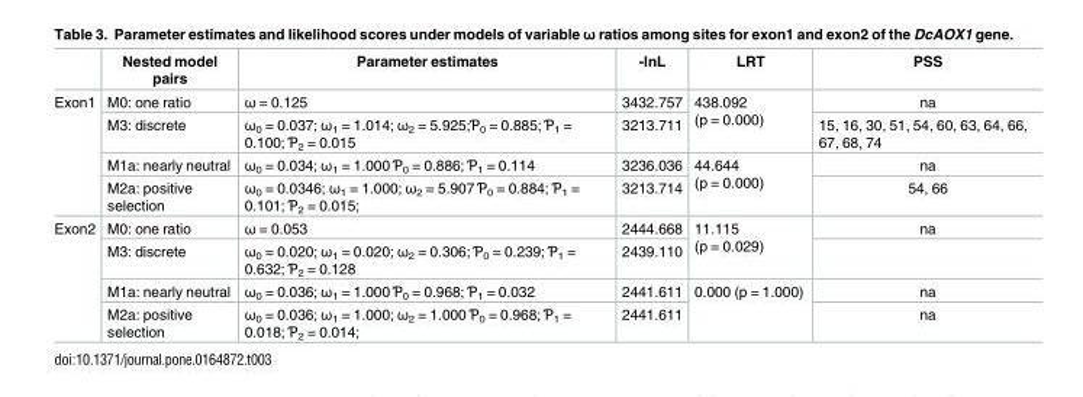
<table><thead><tr><td></td><td>Nested model pairs</td><td>Parameter estimates</td><td>-lnL</td><td>LRT</td><td>PSS</td></tr></thead><tbody><tr><td rowspan="4">Exon1</td><td>M0: one ratio</td><td>ω = 0.125</td><td>3432.757</td><td rowspan="2">438.092 (p = 0.000)</td><td>na</td></tr><tr><td>M3: discrete</td><td>ω<sub>0</sub> = 0.037; ω<sub>1</sub> = 1.014; ω<sub>2</sub> = 5.925;Ƥ<sub>0</sub> = 0.885; Ƥ<sub>1</sub> = 0.100; Ƥ<sub>2</sub> = 0.015</td><td>3213.711</td><td>15, 16, 30, 51, 54, 60, 63, 64, 66, 67, 68, 74</td></tr><tr><td>M1a: nearly neutral</td><td>ω<sub>0</sub> = 0.034; ω<sub>1</sub> = 1.000 Ƥ<sub>0</sub> = 0.886; Ƥ<sub>1</sub> = 0.114</td><td>3236.036</td><td rowspan="2">44.644 (p = 0.000)</td><td>na</td></tr><tr><td>M2a: positive selection</td><td>ω<sub>0</sub> = 0.0346; ω<sub>1</sub> = 1.000; ω<sub>2</sub> = 5.907 Ƥ<sub>0</sub> = 0.884; Ƥ<sub>1</sub> = 0.101; Ƥ<sub>2</sub> = 0.015;</td><td>3213.714</td><td>54, 66</td></tr><tr><td rowspan="4">Exon2</td><td>M0: one ratio</td><td>ω = 0.053</td><td>2444.668</td><td rowspan="2">11.115 (p = 0.029)</td><td>na</td></tr><tr><td>M3: discrete</td><td>ω<sub>0</sub> = 0.020; ω<sub>1</sub> = 0.020; ω<sub>2</sub> = 0.306; Ƥ<sub>0</sub> = 0.239; Ƥ<sub>1</sub> = 0.632; Ƥ<sub>2</sub> = 0.128</td><td>2439.110</td><td></td></tr><tr><td>M1a: nearly neutral</td><td>ω<sub>0</sub> = 0.036; ω<sub>1</sub> = 1.000 Ƥ<sub>0</sub> = 0.968; Ƥ<sub>1</sub> = 0.032</td><td>2441.611</td><td rowspan="2">0.000 (p = 1.000)</td><td>na</td></tr><tr><td>M2a: positive selection</td><td>ω<sub>0</sub> = 0.036; ω<sub>1</sub> = 1.000; ω<sub>2</sub> = 1.000 Ƥ<sub>0</sub> = 0.968; Ƥ<sub>1</sub> = 0.018; Ƥ<sub>2</sub> = 0.014;</td><td>2441.611</td><td>na</td></tr></tbody></table>